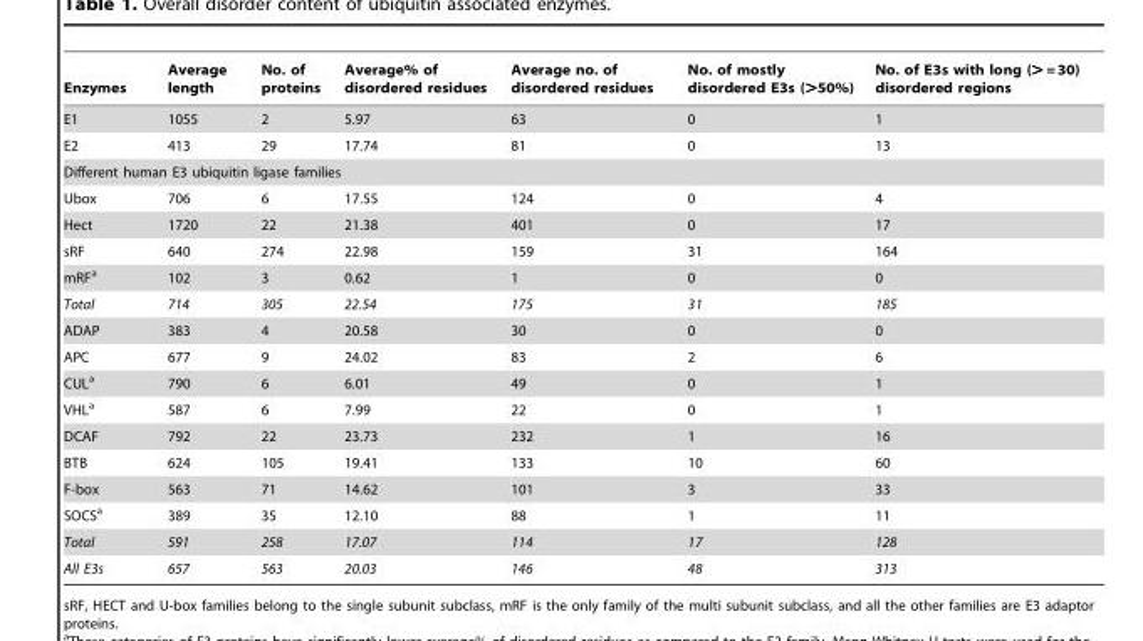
<table><thead><tr><td>Enzymes</td><td>Average length</td><td>No. of proteins</td><td>Average% of disordered residues</td><td>Average no. of disordered residues</td><td>No. of mostly disordered E3s (&gt;50%)</td><td>No. of E3s with long (&gt; = 30) disordered regions</td></tr></thead><tbody><tr><td>E1</td><td>1055</td><td>2</td><td>5.97</td><td>63</td><td>0</td><td>1</td></tr><tr><td>E2</td><td>413</td><td>29</td><td>17.74</td><td>81</td><td>0</td><td>13</td></tr><tr><td colspan="7">Different human E3 ubiquitin ligase families</td></tr><tr><td>Ubox</td><td>706</td><td>6</td><td>17.55</td><td>124</td><td>0</td><td>4</td></tr><tr><td>Hect</td><td>1720</td><td>22</td><td>21.38</td><td>401</td><td>0</td><td>17</td></tr><tr><td>sRF</td><td>640</td><td>274</td><td>22.98</td><td>159</td><td>31</td><td>164</td></tr><tr><td>mRF<sup>a</sup></td><td>102</td><td>3</td><td>0.62</td><td>1</td><td>0</td><td>0</td></tr><tr><td>Total</td><td>714</td><td>305</td><td>22.54</td><td>175</td><td>31</td><td>185</td></tr><tr><td>ADAP</td><td>383</td><td>4</td><td>20.58</td><td>30</td><td>0</td><td>0</td></tr><tr><td>APC</td><td>677</td><td>9</td><td>24.02</td><td>83</td><td>2</td><td>6</td></tr><tr><td>CUL<sup>a</sup></td><td>790</td><td>6</td><td>6.01</td><td>49</td><td>0</td><td>1</td></tr><tr><td>VHL<sup>a</sup></td><td>587</td><td>6</td><td>7.99</td><td>22</td><td>0</td><td>1</td></tr><tr><td>DCAF</td><td>792</td><td>22</td><td>23.73</td><td>232</td><td>1</td><td>16</td></tr><tr><td>BTB</td><td>624</td><td>105</td><td>19.41</td><td>133</td><td>10</td><td>60</td></tr><tr><td>F-box</td><td>563</td><td>71</td><td>14.62</td><td>101</td><td>3</td><td>33</td></tr><tr><td>SOCS<sup>a</sup></td><td>389</td><td>35</td><td>12.10</td><td>88</td><td>1</td><td>11</td></tr><tr><td>Total</td><td>591</td><td>258</td><td>17.07</td><td>114</td><td>17</td><td>128</td></tr><tr><td>All E3s</td><td>657</td><td>563</td><td>20.03</td><td>146</td><td>48</td><td>313</td></tr></tbody></table>